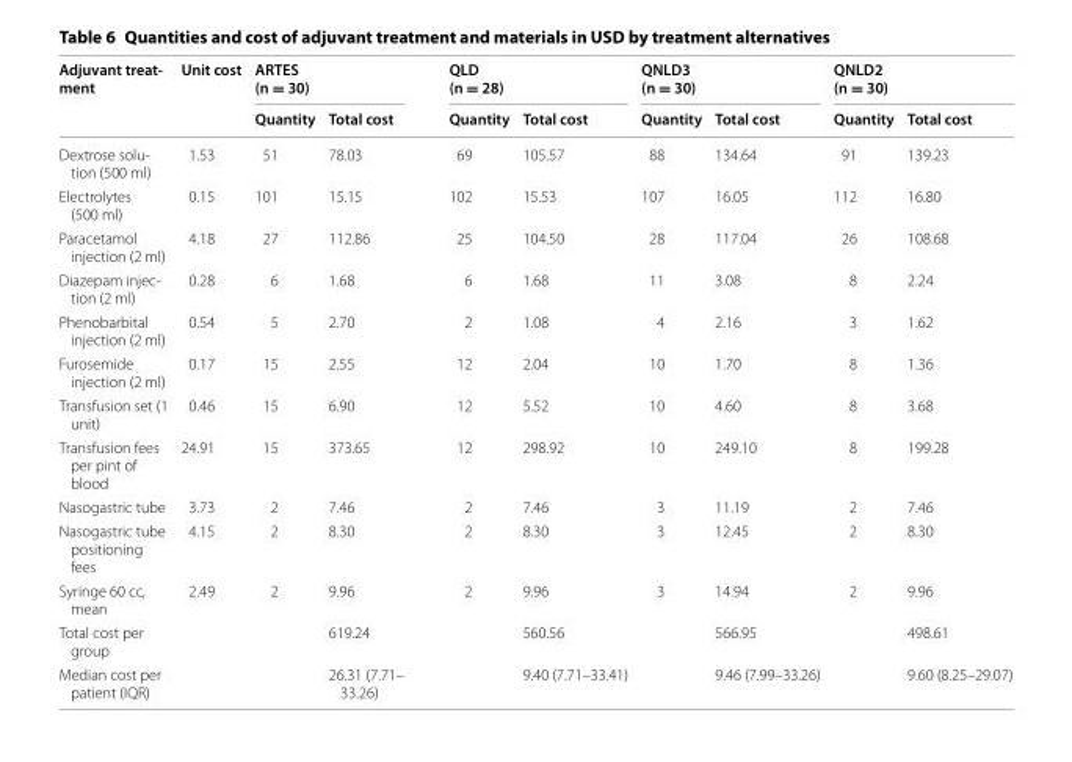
<table><thead><tr><td rowspan="2">Adjuvant treat- ment</td><td rowspan="2">Unit cost</td><td colspan="2">ARTES (n = 30)</td><td colspan="2">QLD (n = 28)</td><td colspan="2">QNLD3 (n = 30)</td><td colspan="2">QNLD2 (n = 30)</td></tr><tr><td>Quantity</td><td>Total cost</td><td>Quantity</td><td>Total cost</td><td>Quantity</td><td>Total cost</td><td>Quantity</td><td>Total cost</td></tr></thead><tbody><tr><td>Dextrose solu- tion (500 ml)</td><td>1.53</td><td>51</td><td>78.03</td><td>69</td><td>105.57</td><td>88</td><td>134.64</td><td>91</td><td>139.23</td></tr><tr><td>Electrolytes (500 ml)</td><td>0.15</td><td>101</td><td>15.15</td><td>102</td><td>15.53</td><td>107</td><td>16.05</td><td>112</td><td>16.80</td></tr><tr><td>Paracetamol injection (2 ml)</td><td>4.18</td><td>27</td><td>112.86</td><td>25</td><td>104.50</td><td>28</td><td>117.04</td><td>26</td><td>108.68</td></tr><tr><td>Diazepam injec- tion (2 ml)</td><td>0.28</td><td>6</td><td>1.68</td><td>6</td><td>1.68</td><td>11</td><td>3.08</td><td>8</td><td>2.24</td></tr><tr><td>Phenobarbital injection (2 ml)</td><td>0.54</td><td>5</td><td>2.70</td><td>2</td><td>1.08</td><td>4</td><td>2.16</td><td>3</td><td>1.62</td></tr><tr><td>Furosemide injection (2 ml)</td><td>0.17</td><td>15</td><td>2.55</td><td>12</td><td>2.04</td><td>10</td><td>1.70</td><td>8</td><td>1.36</td></tr><tr><td>Transfusion set (1 unit)</td><td>0.46</td><td>15</td><td>6.90</td><td>12</td><td>5.52</td><td>10</td><td>4.60</td><td>8</td><td>3.68</td></tr><tr><td>Transfusion fees per pint of blood</td><td>24.91</td><td>15</td><td>373.65</td><td>12</td><td>298.92</td><td>10</td><td>249.10</td><td>8</td><td>199.28</td></tr><tr><td>Nasogastric tube</td><td>3.73</td><td>2</td><td>7.46</td><td>2</td><td>7.46</td><td>3</td><td>11.19</td><td>2</td><td>7.46</td></tr><tr><td>Nasogastric tube positioning fees</td><td>4.15</td><td>2</td><td>8.30</td><td>2</td><td>8.30</td><td>3</td><td>12.45</td><td>2</td><td>8.30</td></tr><tr><td>Syringe 60 cc, mean</td><td>2.49</td><td>2</td><td>9.96</td><td>2</td><td>9.96</td><td>3</td><td>14.94</td><td>2</td><td>9.96</td></tr><tr><td>Total cost per group</td><td></td><td></td><td>619.24</td><td></td><td>560.56</td><td></td><td>566.95</td><td></td><td>498.61</td></tr><tr><td>Median cost per patient (IQR)</td><td></td><td></td><td>26.31 (7.71– 33.26)</td><td></td><td>9.40 (7.71–33.41)</td><td></td><td>9.46 (7.99–33.26)</td><td></td><td>9.60 (8.25–29.07)</td></tr></tbody></table>